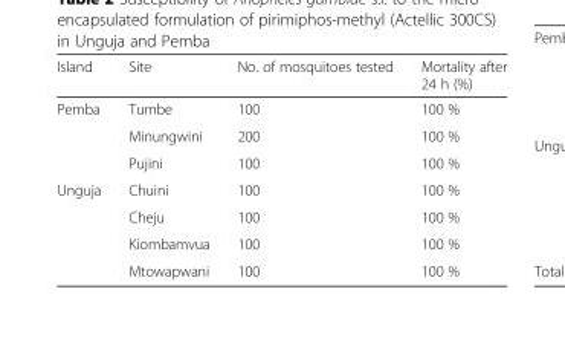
<table><thead><tr><td>Island</td><td>Site</td><td>No. of mosquitoes tested</td><td>Mortality after 24 h (%)</td></tr></thead><tbody><tr><td rowspan="3">Pemba</td><td>Tumbe</td><td>100</td><td>100 %</td></tr><tr><td>Minungwini</td><td>200</td><td>100 %</td></tr><tr><td>Pujini</td><td>100</td><td>100 %</td></tr><tr><td rowspan="4">Unguja</td><td>Chuini</td><td>100</td><td>100 %</td></tr><tr><td>Cheju</td><td>100</td><td>100 %</td></tr><tr><td>Kiombamvua</td><td>100</td><td>100 %</td></tr><tr><td>Mtowapwani</td><td>100</td><td>100 %</td></tr></tbody></table>